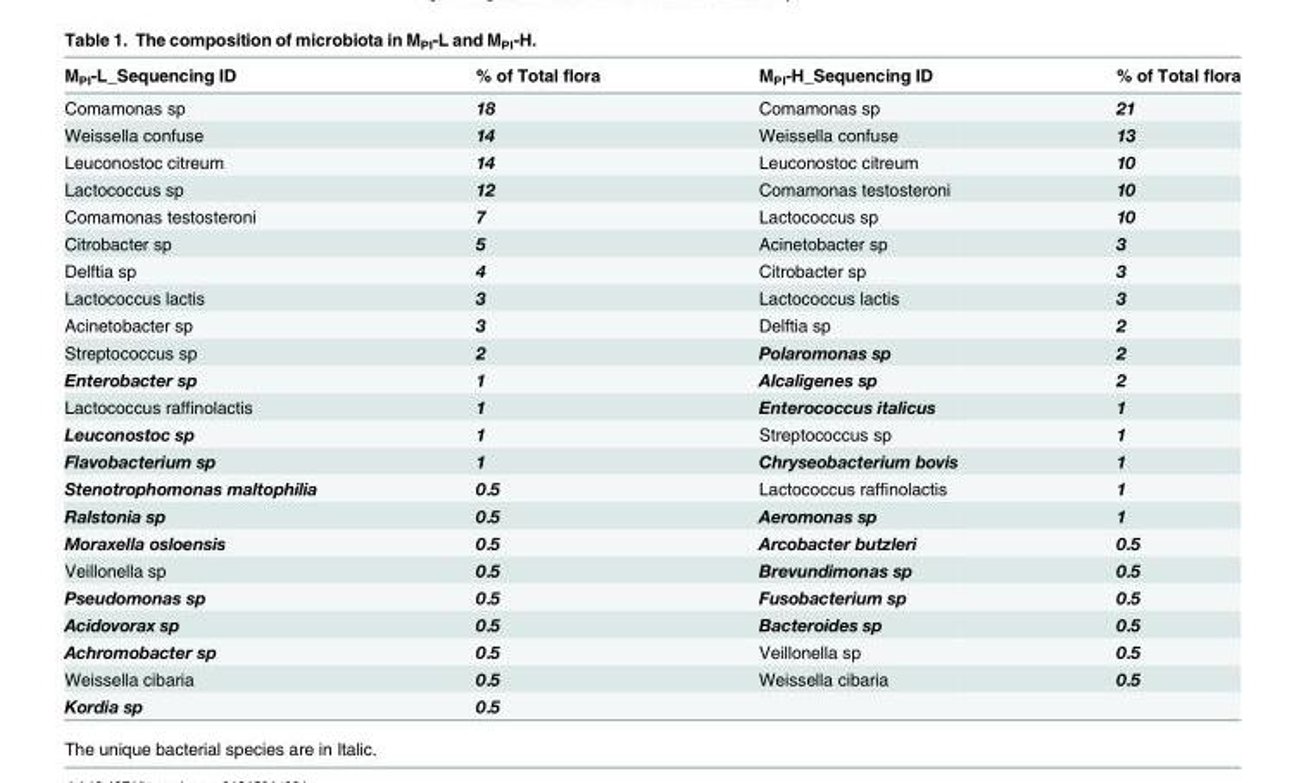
<table><thead><tr><td>M<sub>PI</sub>-L_Sequencing ID</td><td>% of Total flora</td><td>M<sub>PI</sub>-H_Sequencing ID</td><td>% of Total flora</td></tr></thead><tbody><tr><td>Comamonas sp</td><td>18</td><td>Comamonas sp</td><td>21</td></tr><tr><td>Weissella confuse</td><td>14</td><td>Weissella confuse</td><td>13</td></tr><tr><td>Leuconostoc citreum</td><td>14</td><td>Leuconostoc citreum</td><td>10</td></tr><tr><td>Lactococcus sp</td><td>12</td><td>Comamonas testosteroni</td><td>10</td></tr><tr><td>Comamonas testosteroni</td><td>7</td><td>Lactococcus sp</td><td>10</td></tr><tr><td>Citrobacter sp</td><td>5</td><td>Acinetobacter sp</td><td>3</td></tr><tr><td>Delftia sp</td><td>4</td><td>Citrobacter sp</td><td>3</td></tr><tr><td>Lactococcus lactis</td><td>3</td><td>Lactococcus lactis</td><td>3</td></tr><tr><td>Acinetobacter sp</td><td>3</td><td>Delftia sp</td><td>2</td></tr><tr><td>Streptococcus sp</td><td>2</td><td>Polaromonas sp</td><td>2</td></tr><tr><td>Enterobacter sp</td><td>1</td><td>Alcaligenes sp</td><td>2</td></tr><tr><td>Lactococcus raffinolactis</td><td>1</td><td>Enterococcus italicus</td><td>1</td></tr><tr><td>Leuconostoc sp</td><td>1</td><td>Streptococcus sp</td><td>1</td></tr><tr><td>Flavobacterium sp</td><td>1</td><td>Chryseobacterium bovis</td><td>1</td></tr><tr><td>Stenotrophomonas maltophilia</td><td>0.5</td><td>Lactococcus raffinolactis</td><td>1</td></tr><tr><td>Ralstonia sp</td><td>0.5</td><td>Aeromonas sp</td><td>1</td></tr><tr><td>Moraxella osloensis</td><td>0.5</td><td>Arcobacter butzleri</td><td>0.5</td></tr><tr><td>Veillonella sp</td><td>0.5</td><td>Brevundimonas sp</td><td>0.5</td></tr><tr><td>Pseudomonas sp</td><td>0.5</td><td>Fusobacterium sp</td><td>0.5</td></tr><tr><td>Acidovorax sp</td><td>0.5</td><td>Bacteroides sp</td><td>0.5</td></tr><tr><td>Achromobacter sp</td><td>0.5</td><td>Veillonella sp</td><td>0.5</td></tr><tr><td>Weissella cibaria</td><td>0.5</td><td>Weissella cibaria</td><td>0.5</td></tr><tr><td>Kordia sp</td><td>0.5</td><td></td><td></td></tr></tbody></table>